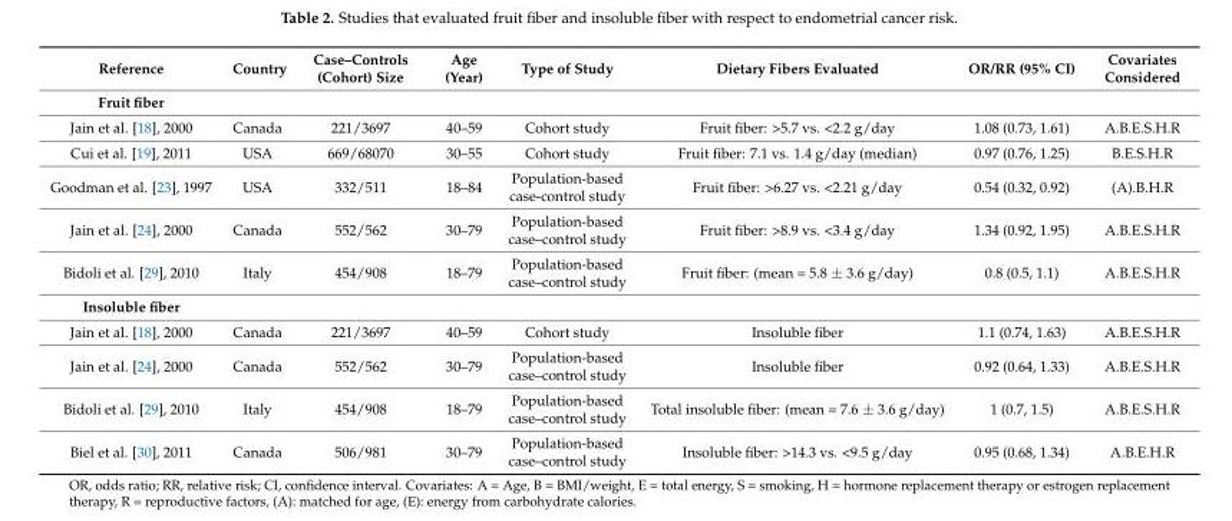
<table><thead><tr><td>Reference</td><td>Country</td><td>Case–Controls (Cohort) Size</td><td>Age (Year)</td><td>Type of Study</td><td>Dietary Fibers Evaluated</td><td>OR/RR (95% CI)</td><td>Covariates Considered</td></tr></thead><tbody><tr><td colspan="8">Fruit fiber</td></tr><tr><td>Jain et al. [18], 2000</td><td>Canada</td><td>221/3697</td><td>40–59</td><td>Cohort study</td><td>Fruit fiber: &gt;5.7 vs. &lt;2.2 g/day</td><td>1.08 (0.73, 1.61)</td><td>A.B.E.S.H.R</td></tr><tr><td>Cui et al. [19], 2011</td><td>USA</td><td>669/68070</td><td>30–55</td><td>Cohort study</td><td>Fruit fiber: 7.1 vs. 1.4 g/day (median)</td><td>0.97 (0.76, 1.25)</td><td>B.E.S.H.R</td></tr><tr><td>Goodman et al. [23], 1997</td><td>USA</td><td>332/511</td><td>18–84</td><td>Population-based case-control study</td><td>Fruit fiber: &gt;6.27 vs. &lt;2.21 g/day</td><td>0.54 (0.32, 0.92)</td><td>(A).B.H.R</td></tr><tr><td>Jain et al. [24], 2000</td><td>Canada</td><td>552/562</td><td>30–79</td><td>Population-based case–control study</td><td>Fruit fiber: &gt;8.9 vs. &lt;3.4 g/day</td><td>1.34 (0.92, 1.95)</td><td>A.B.E.S.H.R</td></tr><tr><td>Bidoli et al. [29], 2010</td><td>Italy</td><td>454/908</td><td>18–79</td><td>Population-based case–control study</td><td>Fruit fiber: (mean = 5.8 ± 3.6 g/day)</td><td>0.8 (0.5, 1.1)</td><td>A.B.E.S.H.R</td></tr><tr><td colspan="8">Insoluble fiber</td></tr><tr><td>Jain et al. [18], 2000</td><td>Canada</td><td>221/3697</td><td>40–59</td><td>Cohort study</td><td>Insoluble fiber</td><td>1.1 (0.74, 1.63)</td><td>A.B.E.S.H.R</td></tr><tr><td>Jain et al. [24], 2000</td><td>Canada</td><td>552/562</td><td>30–79</td><td>Population-based case–control study</td><td>Insoluble fiber</td><td>0.92 (0.64, 1.33)</td><td>A.B.E.S.H.R</td></tr><tr><td>Bidoli et al. [29], 2010</td><td>Italy</td><td>454/908</td><td>18–79</td><td>Population-based case–control study</td><td>Total insoluble fiber: (mean = 7.6 ± 3.6 g/day)</td><td>1 (0.7, 1.5)</td><td>A.B.E.S.H.R</td></tr><tr><td>Biel et al. [30], 2011</td><td>Canada</td><td>506/981</td><td>30–79</td><td>Population-based case–control study</td><td>Insoluble fiber: &gt;14.3 vs. &lt;9.5 g/day</td><td>0.95 (0.68, 1.34)</td><td>A.B.E.H.R</td></tr></tbody></table>